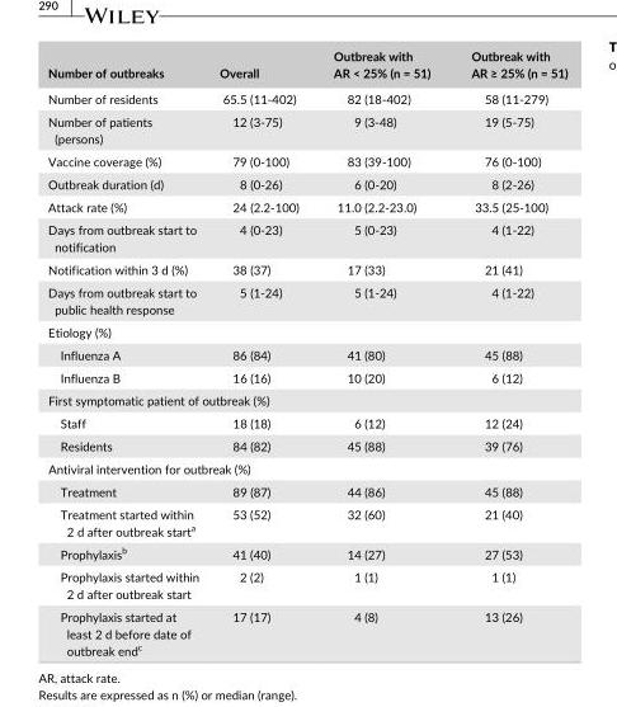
<table><thead><tr><td>Number of outbreaks</td><td>Overall</td><td>Outbreak with AR &lt; 25% (n = 51)</td><td>Outbreak with AR ≥ 25% (n = 51)</td></tr></thead><tbody><tr><td>Number of residents</td><td>65.5 (11- 402)</td><td>82 (18- 402)</td><td>58 (11- 279)</td></tr><tr><td>Number of patients (persons)</td><td>12 (3- 75)</td><td>9 (3- 48)</td><td>19 (5- 75)</td></tr><tr><td>Vaccine coverage (%)</td><td>79 (0- 100)</td><td>83 (39- 100)</td><td>76 (0- 100)</td></tr><tr><td>Outbreak duration (d)</td><td>8 (0- 26)</td><td>6 (0- 20)</td><td>8 (2- 26)</td></tr><tr><td>Attack rate (%)</td><td>24 (2.2- 100)</td><td>11.0 (2.2- 23.0)</td><td>33.5 (25- 100)</td></tr><tr><td>Days from outbreak start to notification</td><td>4 (0- 23)</td><td>5 (0- 23)</td><td>4 (1- 22)</td></tr><tr><td>Notification within 3 d (%)</td><td>38 (37)</td><td>17 (33)</td><td>21 (41)</td></tr><tr><td>Days from outbreak start to public health response</td><td>5 (1- 24)</td><td>5 (1- 24)</td><td>4 (1- 22)</td></tr><tr><td colspan="4">Etiology (%)</td></tr><tr><td>Influenza A</td><td>86 (84)</td><td>41 (80)</td><td>45 (88)</td></tr><tr><td>Influenza B</td><td>16 (16)</td><td>10 (20)</td><td>6 (12)</td></tr><tr><td colspan="4">First symptomatic patient of outbreak (%)</td></tr><tr><td>Staff</td><td>18 (18)</td><td>6 (12)</td><td>12 (24)</td></tr><tr><td>Residents</td><td>84 (82)</td><td>45 (88)</td><td>39 (76)</td></tr><tr><td colspan="4">Antiviral intervention for outbreak (%)</td></tr><tr><td>Treatment</td><td>89 (87)</td><td>44 (86)</td><td>45 (88)</td></tr><tr><td>Treatment started within 2 d after outbreak start<sup>a</sup></td><td>53 (52)</td><td>32 (60)</td><td>21 (40)</td></tr><tr><td>Prophylaxis<sup>b</sup></td><td>41 (40)</td><td>14 (27)</td><td>27 (53)</td></tr><tr><td>Prophylaxis started within 2 d after outbreak start</td><td>2 (2)</td><td>1 (1)</td><td>1 (1)</td></tr><tr><td>Prophylaxis started at least 2 d before date of outbreak end<sup>c</sup></td><td>17 (17)</td><td>4 (8)</td><td>13 (26)</td></tr></tbody></table>